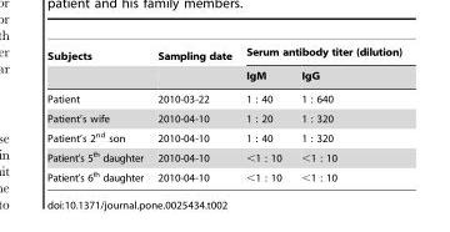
<table><thead><tr><td rowspan="2">Subjects</td><td rowspan="2">Sampling date</td><td colspan="2">Serum antibody titer (dilution)</td></tr><tr><td>IgM</td><td>IgG</td></tr></thead><tbody><tr><td>Patient</td><td>2010-03-22</td><td>1 : 40</td><td>1 : 640</td></tr><tr><td>Patient’s wife</td><td>2010-04-10</td><td>1 : 20</td><td>1 : 320</td></tr><tr><td>Patient’s 2<sup>nd</sup> son</td><td>2010-04-10</td><td>1 : 40</td><td>1 : 320</td></tr><tr><td>Patient’s 5<sup>th</sup> daughter</td><td>2010-04-10</td><td>&lt;1 : 10</td><td>&lt;1 : 10</td></tr><tr><td>Patient’s 6<sup>th</sup> daughter</td><td>2010-04-10</td><td>&lt;1 : 10</td><td>&lt;1 : 10</td></tr></tbody></table>